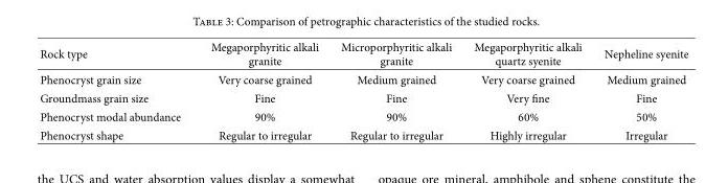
<table><thead><tr><td>Rock type</td><td>Megaporphyritic alkali granite</td><td>Microporphyritic alkali granite</td><td>Megaporphyritic alkali quartz syenite</td><td>Nepheline syenite</td></tr></thead><tbody><tr><td>Phenocryst grain size</td><td>Very coarse grained</td><td>Medium grained</td><td>Very coarse grained</td><td>Medium grained</td></tr><tr><td>Groundmass grain size</td><td>Fine</td><td>Fine</td><td>Very fine</td><td>Fine</td></tr><tr><td>Phenocryst modal abundance</td><td>90%</td><td>90%</td><td>60%</td><td>50%</td></tr><tr><td>Phenocryst shape</td><td>Regular to irregular</td><td>Regular to irregular</td><td>Highly irregular</td><td>Irregular</td></tr></tbody></table>